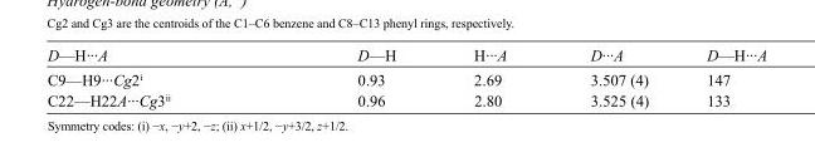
<table><tbody><tr><td>D—H···A</td><td>D—H</td><td>H···A</td><td>D···A</td><td>D—H···A</td></tr><tr><td>C9—H9···Cg2<sup>i</sup></td><td>0.93</td><td>2.69</td><td>3.507 (4)</td><td>147</td></tr><tr><td>C22—H22A···Cg3<sup>ii</sup></td><td>0.96</td><td>2.80</td><td>3.525 (4)</td><td>133</td></tr></tbody></table>